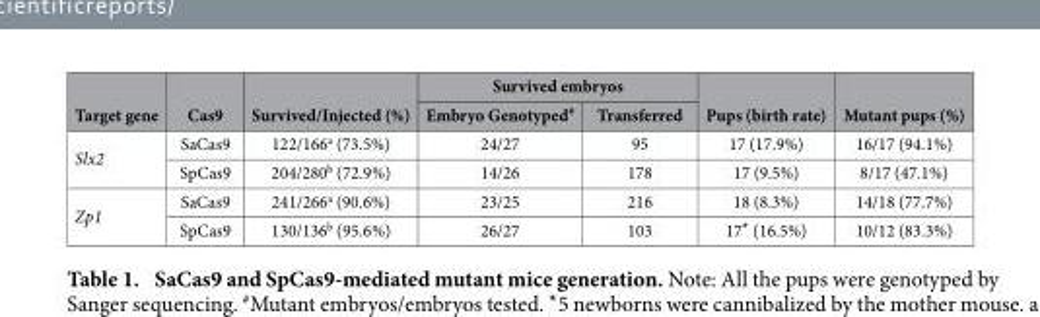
<table><thead><tr><td rowspan="2">Target gene</td><td rowspan="2">Cas9</td><td rowspan="2">Survived/Injected (%)</td><td colspan="2">Survived embryos</td><td rowspan="2">Pups (birth rate)</td><td rowspan="2">Mutant pups (%)</td></tr><tr><td>Embryo Genotyped#</td><td>Transferred</td></tr></thead><tbody><tr><td rowspan="2">Slx2</td><td>SaCas9</td><td>122/166<sup>a</sup> (73.5%)</td><td>24/27</td><td>95</td><td>17 (17.9%)</td><td>16/17 (94.1%)</td></tr><tr><td>SpCas9</td><td>204/280<sup>b</sup> (72.9%)</td><td>14/26</td><td>178</td><td>17 (9.5%)</td><td>8/17 (47.1%)</td></tr><tr><td rowspan="2">Zp1</td><td>SaCas9</td><td>241/266<sup>a</sup> (90.6%)</td><td>23/25</td><td>216</td><td>18 (8.3%)</td><td>14/18 (77.7%)</td></tr><tr><td>SpCas9</td><td>130/136<sup>b</sup> (95.6%)</td><td>26/27</td><td>103</td><td>17* (16.5%)</td><td>10/12 (83.3%)</td></tr></tbody></table>